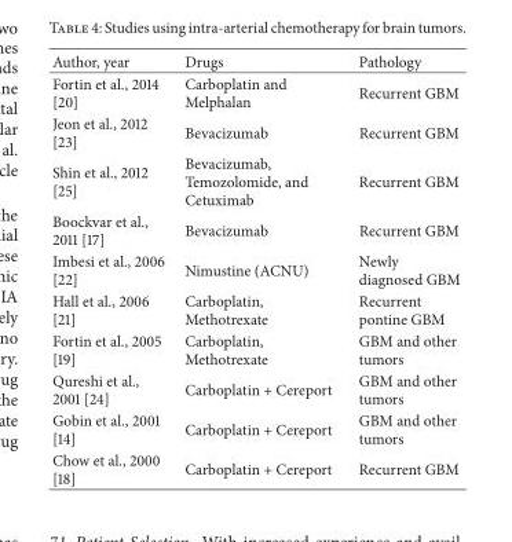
<table><thead><tr><td>Author, year</td><td>Drugs</td><td>Pathology</td></tr></thead><tbody><tr><td>Fortin et al., 2014 [20]</td><td>Carboplatin and Melphalan</td><td>Recurrent GBM</td></tr><tr><td>Jeon et al., 2012 [23]</td><td>Bevacizumab</td><td>Recurrent GBM</td></tr><tr><td>Shin et al., 2012 [25]</td><td>Bevacizumab, Temozolomide, and Cetuximab</td><td>Recurrent GBM</td></tr><tr><td>Boockvar et al., 2011 [17]</td><td>Bevacizumab</td><td>Recurrent GBM</td></tr><tr><td>Imbesi et al., 2006 [22]</td><td>Nimustine (ACNU)</td><td>Newly diagnosed GBM</td></tr><tr><td>Hall et al., 2006 [21]</td><td>Carboplatin, Methotrexate</td><td>Recurrent pontine GBM</td></tr><tr><td>Fortin et al., 2005 [19]</td><td>Carboplatin, Methotrexate</td><td>GBM and other tumors</td></tr><tr><td>Qureshi et al., 2001 [24]</td><td>Carboplatin + Cereport</td><td>GBM and other tumors</td></tr><tr><td>Gobin et al., 2001 [14]</td><td>Carboplatin + Cereport</td><td>GBM and other tumors</td></tr><tr><td>Chow et al., 2000 [18]</td><td>Carboplatin + Cereport</td><td>Recurrent GBM</td></tr></tbody></table>